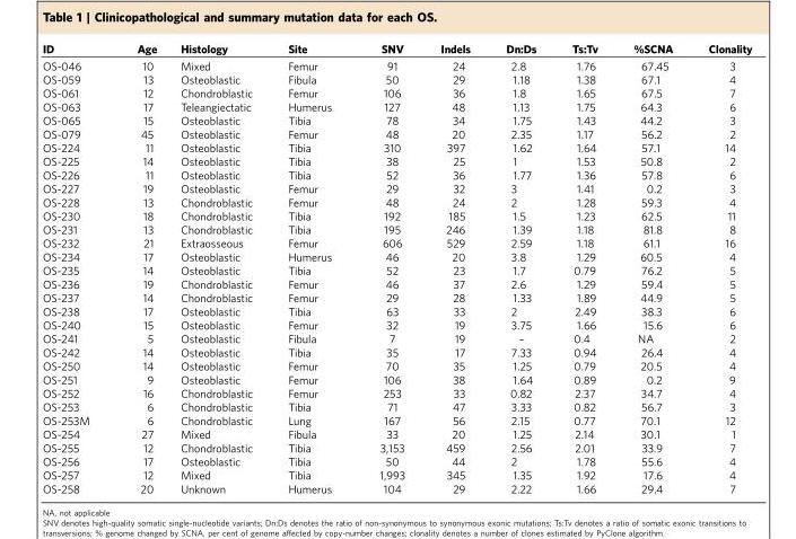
<table><thead><tr><td>ID</td><td>Age</td><td>Histology</td><td>Site</td><td>SNV</td><td>Indels</td><td>Dn:Ds</td><td>Ts:Tv</td><td>%SCNA</td><td>Clonality</td></tr></thead><tbody><tr><td>OS-046</td><td>10</td><td>Mixed</td><td>Femur</td><td>91</td><td>24</td><td>2.8</td><td>1.76</td><td>67.45</td><td>3</td></tr><tr><td>OS-059</td><td>13</td><td>Osteoblastic</td><td>Fibula</td><td>50</td><td>29</td><td>1.18</td><td>1.38</td><td>67.1</td><td>4</td></tr><tr><td>OS-061</td><td>12</td><td>Chondroblastic</td><td>Femur</td><td>106</td><td>36</td><td>1.8</td><td>1.65</td><td>67.5</td><td>7</td></tr><tr><td>OS-063</td><td>17</td><td>Teleangiectatic</td><td>Humerus</td><td>127</td><td>48</td><td>1.13</td><td>1.75</td><td>64.3</td><td>6</td></tr><tr><td>OS-065</td><td>15</td><td>Osteoblastic</td><td>Tibia</td><td>78</td><td>34</td><td>1.75</td><td>1.43</td><td>44.2</td><td>3</td></tr><tr><td>OS-079</td><td>45</td><td>Osteoblastic</td><td>Femur</td><td>48</td><td>20</td><td>2.35</td><td>1.17</td><td>56.2</td><td>2</td></tr><tr><td>OS-224</td><td>11</td><td>Osteoblastic</td><td>Tibia</td><td>310</td><td>397</td><td>1.62</td><td>1.64</td><td>57.1</td><td>14</td></tr><tr><td>OS-225</td><td>14</td><td>Osteoblastic</td><td>Tibia</td><td>38</td><td>25</td><td>1</td><td>1.53</td><td>50.8</td><td>2</td></tr><tr><td>OS-226</td><td>11</td><td>Osteoblastic</td><td>Tibia</td><td>52</td><td>36</td><td>1.77</td><td>1.36</td><td>57.8</td><td>6</td></tr><tr><td>OS-227</td><td>19</td><td>Osteoblastic</td><td>Femur</td><td>29</td><td>32</td><td>3</td><td>1.41</td><td>0.2</td><td>3</td></tr><tr><td>OS-228</td><td>13</td><td>Chondroblastic</td><td>Femur</td><td>48</td><td>24</td><td>2</td><td>1.28</td><td>59.3</td><td>4</td></tr><tr><td>OS-230</td><td>18</td><td>Chondroblastic</td><td>Tibia</td><td>192</td><td>185</td><td>1.5</td><td>1.23</td><td>62.5</td><td>11</td></tr><tr><td>OS-231</td><td>13</td><td>Chondroblastic</td><td>Tibia</td><td>195</td><td>246</td><td>1.39</td><td>1.18</td><td>81.8</td><td>8</td></tr><tr><td>OS-232</td><td>21</td><td>Extraosseous</td><td>Femur</td><td>606</td><td>529</td><td>2.59</td><td>1.18</td><td>61.1</td><td>16</td></tr><tr><td>OS-234</td><td>17</td><td>Osteoblastic</td><td>Humerus</td><td>46</td><td>20</td><td>3.8</td><td>1.29</td><td>60.5</td><td>4</td></tr><tr><td>OS-235</td><td>14</td><td>Osteoblastic</td><td>Tibia</td><td>52</td><td>23</td><td>1.7</td><td>0.79</td><td>76.2</td><td>5</td></tr><tr><td>OS-236</td><td>19</td><td>Chondroblastic</td><td>Femur</td><td>46</td><td>37</td><td>2.6</td><td>1.29</td><td>59.4</td><td>5</td></tr><tr><td>OS-237</td><td>14</td><td>Chondroblastic</td><td>Femur</td><td>29</td><td>28</td><td>1.33</td><td>1.89</td><td>44.9</td><td>5</td></tr><tr><td>OS-238</td><td>17</td><td>Osteoblastic</td><td>Tibia</td><td>63</td><td>33</td><td>2</td><td>2.49</td><td>38.3</td><td>6</td></tr><tr><td>OS-240</td><td>15</td><td>Osteoblastic</td><td>Femur</td><td>32</td><td>19</td><td>3.75</td><td>1.66</td><td>15.6</td><td>6</td></tr><tr><td>OS-241</td><td>5</td><td>Osteoblastic</td><td>Fibula</td><td>7</td><td>19</td><td>–</td><td>0.4</td><td>NA</td><td>2</td></tr><tr><td>OS-242</td><td>14</td><td>Osteoblastic</td><td>Tibia</td><td>35</td><td>17</td><td>7.33</td><td>0.94</td><td>26.4</td><td>4</td></tr><tr><td>OS-250</td><td>14</td><td>Osteoblastic</td><td>Femur</td><td>70</td><td>35</td><td>1.25</td><td>0.79</td><td>20.5</td><td>4</td></tr><tr><td>OS-251</td><td>9</td><td>Osteoblastic</td><td>Femur</td><td>106</td><td>38</td><td>1.64</td><td>0.89</td><td>0.2</td><td>9</td></tr><tr><td>OS-252</td><td>16</td><td>Chondroblastic</td><td>Femur</td><td>253</td><td>33</td><td>0.82</td><td>2.37</td><td>34.7</td><td>4</td></tr><tr><td>OS-253</td><td>6</td><td>Chondroblastic</td><td>Tibia</td><td>71</td><td>47</td><td>3.33</td><td>0.82</td><td>56.7</td><td>3</td></tr><tr><td>OS-253M</td><td>6</td><td>Chondroblastic</td><td>Lung</td><td>167</td><td>56</td><td>2.15</td><td>0.77</td><td>70.1</td><td>12</td></tr><tr><td>OS-254</td><td>27</td><td>Mixed</td><td>Fibula</td><td>33</td><td>20</td><td>1.25</td><td>2.14</td><td>30.1</td><td>1</td></tr><tr><td>OS-255</td><td>12</td><td>Chondroblastic</td><td>Tibia</td><td>3,153</td><td>459</td><td>2.56</td><td>2.01</td><td>33.9</td><td>7</td></tr><tr><td>OS-256</td><td>17</td><td>Osteoblastic</td><td>Tibia</td><td>50</td><td>44</td><td>2</td><td>1.78</td><td>55.6</td><td>4</td></tr><tr><td>OS-257</td><td>12</td><td>Mixed</td><td>Tibia</td><td>1,993</td><td>345</td><td>1.35</td><td>1.92</td><td>17.6</td><td>4</td></tr><tr><td>OS-258</td><td>20</td><td>Unknown</td><td>Humerus</td><td>104</td><td>29</td><td>2.22</td><td>1.66</td><td>29.4</td><td>7</td></tr></tbody></table>